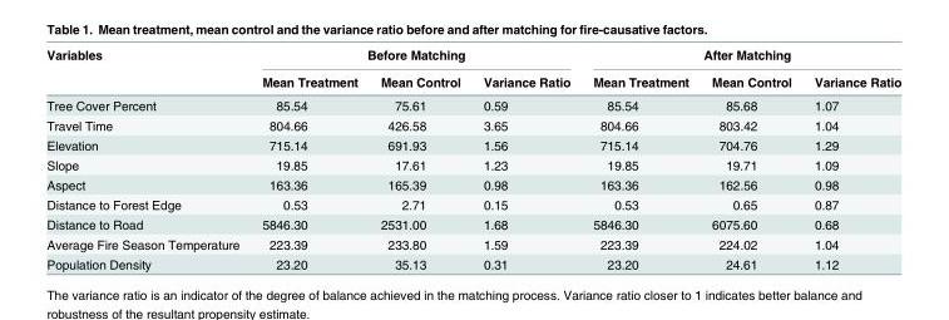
<table><thead><tr><td rowspan="2">Variables</td><td colspan="3">Before Matching</td><td colspan="3">After Matching</td></tr><tr><td>Mean Treatment</td><td>Mean Control</td><td>Variance Ratio</td><td>Mean Treatment</td><td>Mean Control</td><td>Variance Ratio</td></tr></thead><tbody><tr><td>Tree Cover Percent</td><td>85.54</td><td>75.61</td><td>0.59</td><td>85.54</td><td>85.68</td><td>1.07</td></tr><tr><td>Travel Time</td><td>804.66</td><td>426.58</td><td>3.65</td><td>804.66</td><td>803.42</td><td>1.04</td></tr><tr><td>Elevation</td><td>715.14</td><td>691.93</td><td>1.56</td><td>715.14</td><td>704.76</td><td>1.29</td></tr><tr><td>Slope</td><td>19.85</td><td>17.61</td><td>1.23</td><td>19.85</td><td>19.71</td><td>1.09</td></tr><tr><td>Aspect</td><td>163.36</td><td>165.39</td><td>0.98</td><td>163.36</td><td>162.56</td><td>0.98</td></tr><tr><td>Distance to Forest Edge</td><td>0.53</td><td>2.71</td><td>0.15</td><td>0.53</td><td>0.65</td><td>0.87</td></tr><tr><td>Distance to Road</td><td>5846.30</td><td>2531.00</td><td>1.68</td><td>5846.30</td><td>6075.60</td><td>0.68</td></tr><tr><td>Average Fire Season Temperature</td><td>223.39</td><td>233.80</td><td>1.59</td><td>223.39</td><td>224.02</td><td>1.04</td></tr><tr><td>Population Density</td><td>23.20</td><td>35.13</td><td>0.31</td><td>23.20</td><td>24.61</td><td>1.12</td></tr></tbody></table>